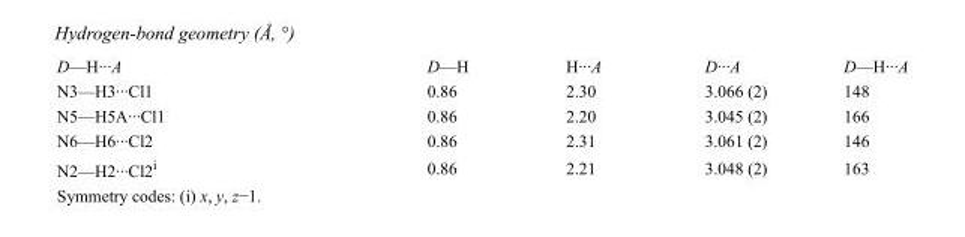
<table><tbody><tr><td>D—H···A</td><td>D—H</td><td>H···A</td><td>D···A</td><td>D—H···A</td></tr><tr><td>N3—H3···Cl1</td><td>0.86</td><td>2.30</td><td>3.066 (2)</td><td>148</td></tr><tr><td>N5—H5A···Cl1</td><td>0.86</td><td>2.20</td><td>3.045 (2)</td><td>166</td></tr><tr><td>N6—H6···Cl2</td><td>0.86</td><td>2.31</td><td>3.061 (2)</td><td>146</td></tr><tr><td>N2—H2···Cl2<sup>i</sup></td><td>0.86</td><td>2.21</td><td>3.048 (2)</td><td>163</td></tr></tbody></table>